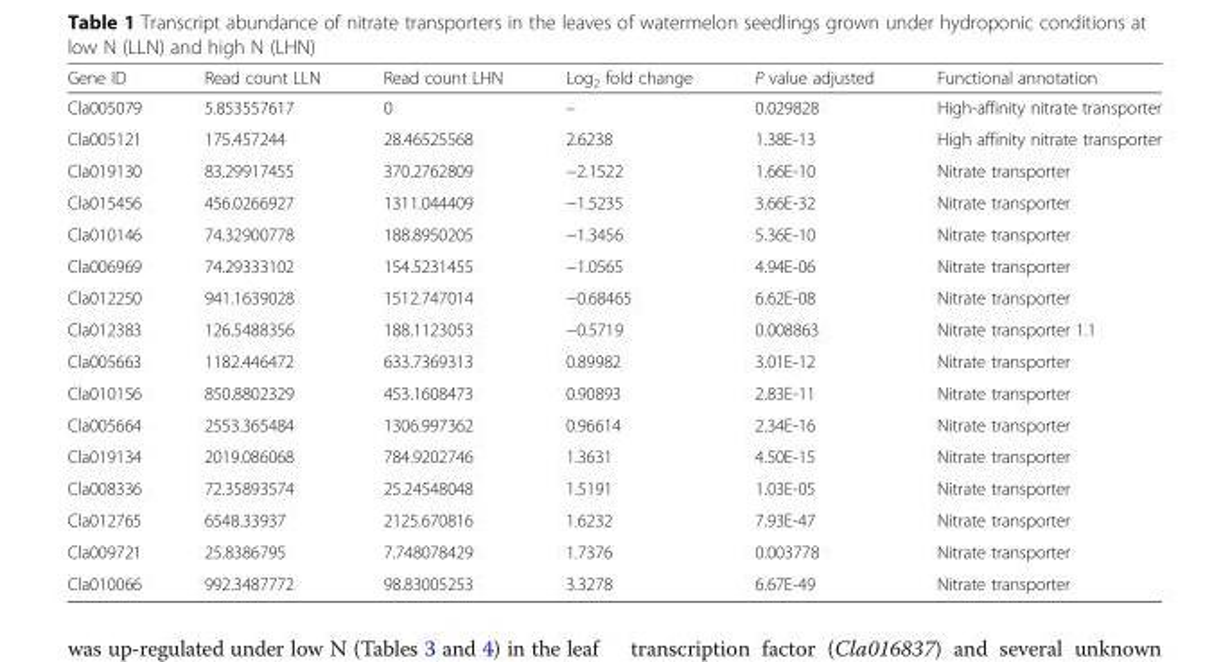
<table><thead><tr><td>Gene ID</td><td>Read count LLN</td><td>Read count LHN</td><td>Log<sub>2</sub> fold change</td><td>P value adjusted</td><td>Functional annotation</td></tr></thead><tbody><tr><td>Cla005079</td><td>5.853557617</td><td>0</td><td>–</td><td>0.029828</td><td>High-affinity nitrate transporter</td></tr><tr><td>Cla005121</td><td>175.457244</td><td>28.46525568</td><td>2.6238</td><td>1.38E-13</td><td>High affinity nitrate transporter</td></tr><tr><td>Cla019130</td><td>83.29917455</td><td>370.2762809</td><td>−2.1522</td><td>1.66E-10</td><td>Nitrate transporter</td></tr><tr><td>Cla015456</td><td>456.0266927</td><td>1311.044409</td><td>−1.5235</td><td>3.66E-32</td><td>Nitrate transporter</td></tr><tr><td>Cla010146</td><td>74.32900778</td><td>188.8950205</td><td>−1.3456</td><td>5.36E-10</td><td>Nitrate transporter</td></tr><tr><td>Cla006969</td><td>74.29333102</td><td>154.5231455</td><td>−1.0565</td><td>4.94E-06</td><td>Nitrate transporter</td></tr><tr><td>Cla012250</td><td>941.1639028</td><td>1512.747014</td><td>−0.68465</td><td>6.62E-08</td><td>Nitrate transporter</td></tr><tr><td>Cla012383</td><td>126.5488356</td><td>188.1123053</td><td>−0.5719</td><td>0.008863</td><td>Nitrate transporter 1.1</td></tr><tr><td>Cla005663</td><td>1182.446472</td><td>633.7369313</td><td>0.89982</td><td>3.01E-12</td><td>Nitrate transporter</td></tr><tr><td>Cla010156</td><td>850.8802329</td><td>453.1608473</td><td>0.90893</td><td>2.83E-11</td><td>Nitrate transporter</td></tr><tr><td>Cla005664</td><td>2553.365484</td><td>1306.997362</td><td>0.96614</td><td>2.34E-16</td><td>Nitrate transporter</td></tr><tr><td>Cla019134</td><td>2019.086068</td><td>784.9202746</td><td>1.3631</td><td>4.50E-15</td><td>Nitrate transporter</td></tr><tr><td>Cla008336</td><td>72.35893574</td><td>25.24548048</td><td>1.5191</td><td>1.03E-05</td><td>Nitrate transporter</td></tr><tr><td>Cla012765</td><td>6548.33937</td><td>2125.670816</td><td>1.6232</td><td>7.93E-47</td><td>Nitrate transporter</td></tr><tr><td>Cla009721</td><td>25.8386795</td><td>7.748078429</td><td>1.7376</td><td>0.003778</td><td>Nitrate transporter</td></tr><tr><td>Cla010066</td><td>992.3487772</td><td>98.83005253</td><td>3.3278</td><td>6.67E-49</td><td>Nitrate transporter</td></tr></tbody></table>